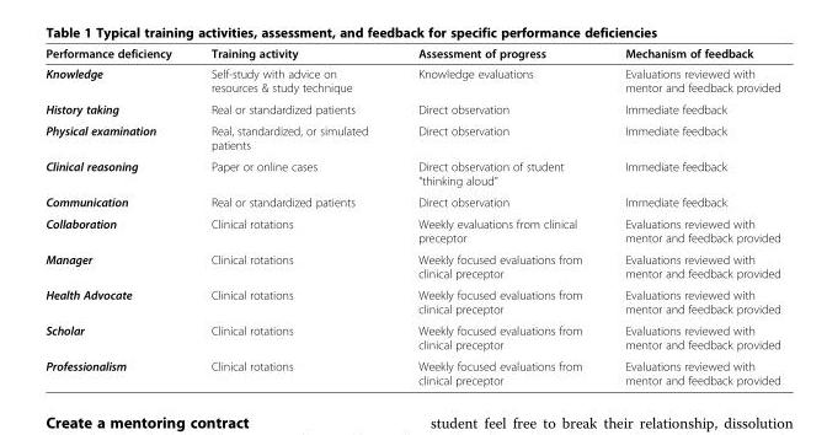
<table><thead><tr><td>Performance deficiency</td><td>Training activity</td><td>Assessment of progress</td><td>Mechanism of feedback</td></tr></thead><tbody><tr><td>Knowledge</td><td>Self-study with advice on resources &amp; study technique</td><td>Knowledge evaluations</td><td>Evaluations reviewed with mentor and feedback provided</td></tr><tr><td>History taking</td><td>Real or standardized patients</td><td>Direct observation</td><td>Immediate feedback</td></tr><tr><td>Physical examination</td><td>Real, standardized, or simulated patients</td><td>Direct observation</td><td>Immediate feedback</td></tr><tr><td>Clinical reasoning</td><td>Paper or online cases</td><td>Direct observation of student “thinking aloud”</td><td>Immediate feedback</td></tr><tr><td>Communication</td><td>Real or standardized patients</td><td>Direct observation</td><td>Immediate feedback</td></tr><tr><td>Collaboration</td><td>Clinical rotations</td><td>Weekly evaluations from clinical preceptor</td><td>Evaluations reviewed with mentor and feedback provided</td></tr><tr><td>Manager</td><td>Clinical rotations</td><td>Weekly focused evaluations from clinical preceptor</td><td>Evaluations reviewed with mentor and feedback provided</td></tr><tr><td>Health Advocate</td><td>Clinical rotations</td><td>Weekly focused evaluations from clinical preceptor</td><td>Evaluations reviewed with mentor and feedback provided</td></tr><tr><td>Scholar</td><td>Clinical rotations</td><td>Weekly focused evaluations from clinical preceptor</td><td>Evaluations reviewed with mentor and feedback provided</td></tr><tr><td>Professionalism</td><td>Clinical rotations</td><td>Weekly focused evaluations from clinical preceptor</td><td>Evaluations reviewed with mentor and feedback provided</td></tr></tbody></table>